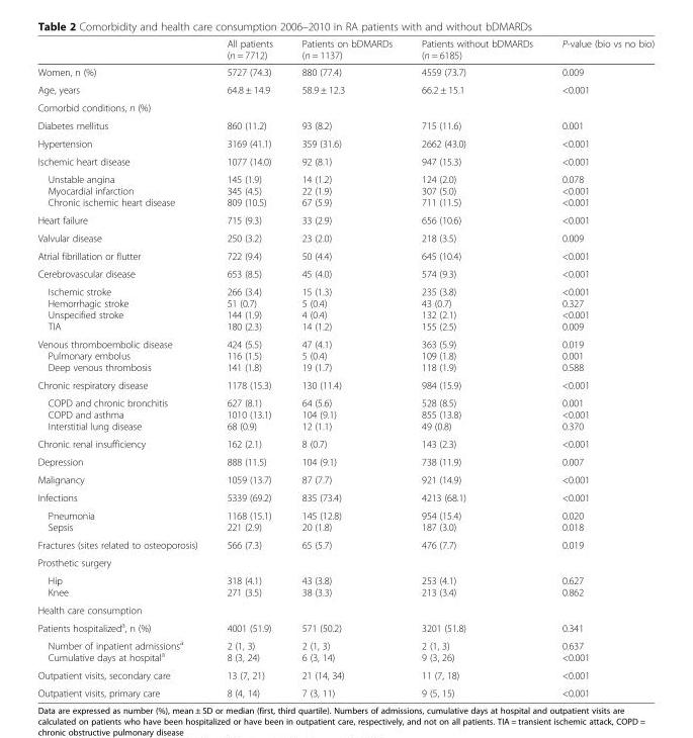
<table><thead><tr><td></td><td>All patients (n = 7712)</td><td>Patients on bDMARDs (n = 1137)</td><td>Patients without bDMARDs (n = 6185)</td><td>P-value (bio vs no bio)</td></tr></thead><tbody><tr><td>Women, n (%)</td><td>5727 (74.3)</td><td>880 (77.4)</td><td>4559 (73.7)</td><td>0.009</td></tr><tr><td>Age, years</td><td>64.8 ± 14.9</td><td>58.9 ± 12.3</td><td>66.2 ± 15.1</td><td>&lt;0.001</td></tr><tr><td colspan="5">Comorbid conditions, n (%)</td></tr><tr><td>Diabetes mellitus</td><td>860 (11.2)</td><td>93 (8.2)</td><td>715 (11.6)</td><td>0.001</td></tr><tr><td>Hypertension</td><td>3169 (41.1)</td><td>359 (31.6)</td><td>2662 (43.0)</td><td>&lt;0.001</td></tr><tr><td>Ischemic heart disease</td><td>1077 (14.0)</td><td>92 (8.1)</td><td>947 (15.3)</td><td>&lt;0.001</td></tr><tr><td>Unstable angina Myocardial infarction Chronic ischemic heart disease</td><td>145 (1.9) 345 (4.5) 809 (10.5)</td><td>14 (1.2) 22 (1.9) 67 (5.9)</td><td>124 (2.0) 307 (5.0) 711 (11.5)</td><td>0.078 &lt;0.001 &lt;0.001</td></tr><tr><td>Heart failure</td><td>715 (9.3)</td><td>33 (2.9)</td><td>656 (10.6)</td><td>&lt;0.001</td></tr><tr><td>Valvular disease</td><td>250 (3.2)</td><td>23 (2.0)</td><td>218 (3.5)</td><td>0.009</td></tr><tr><td>Atrial fibrillation or flutter</td><td>722 (9.4)</td><td>50 (4.4)</td><td>645 (10.4)</td><td>&lt;0.001</td></tr><tr><td>Cerebrovascular disease</td><td>653 (8.5)</td><td>45 (4.0)</td><td>574 (9.3)</td><td>&lt;0.001</td></tr><tr><td>Ischemic stroke Hemorrhagic stroke Unspecified stroke TIA</td><td>266 (3.4) 51 (0.7) 144 (1.9) 180 (2.3)</td><td>15 (1.3) 5 (0.4) 4 (0.4) 14 (1.2)</td><td>235 (3.8) 43 (0.7) 132 (2.1) 155 (2.5)</td><td>&lt;0.001 0.327 &lt;0.001 0.009</td></tr><tr><td>Venous thromboembolic disease Pulmonary embolus Deep venous thrombosis</td><td>424 (5.5) 116 (1.5) 141 (1.8)</td><td>47 (4.1) 5 (0.4) 19 (1.7)</td><td>363 (5.9) 109 (1.8) 118 (1.9)</td><td>0.019 0.001 0.588</td></tr><tr><td>Chronic respiratory disease</td><td>1178 (15.3)</td><td>130 (11.4)</td><td>984 (15.9)</td><td>&lt;0.001</td></tr><tr><td>COPD and chronic bronchitis COPD and asthma Interstitial lung disease</td><td>627 (8.1) 1010 (13.1) 68 (0.9)</td><td>64 (5.6) 104 (9.1) 12 (1.1)</td><td>528 (8.5) 855 (13.8) 49 (0.8)</td><td>0.001 &lt;0.001 0.370</td></tr><tr><td>Chronic renal insufficiency</td><td>162 (2.1)</td><td>8 (0.7)</td><td>143 (2.3)</td><td>&lt;0.001</td></tr><tr><td>Depression</td><td>888 (11.5)</td><td>104 (9.1)</td><td>738 (11.9)</td><td>0.007</td></tr><tr><td>Malignancy</td><td>1059 (13.7)</td><td>87 (7.7)</td><td>921 (14.9)</td><td>&lt;0.001</td></tr><tr><td>Infections</td><td>5339 (69.2)</td><td>835 (73.4)</td><td>4213 (68.1)</td><td>&lt;0.001</td></tr><tr><td>Pneumonia Sepsis</td><td>1168 (15.1) 221 (2.9)</td><td>145 (12.8) 20 (1.8)</td><td>954 (15.4) 187 (3.0)</td><td>0.020 0.018</td></tr><tr><td>Fractures (sites related to osteoporosis)</td><td>566 (7.3)</td><td>65 (5.7)</td><td>476 (7.7)</td><td>0.019</td></tr><tr><td colspan="5">Prosthetic surgery</td></tr><tr><td>Hip Knee</td><td>318 (4.1) 271 (3.5)</td><td>43 (3.8) 38 (3.3)</td><td>253 (4.1) 213 (3.4)</td><td>0.627 0.862</td></tr><tr><td colspan="5">Health care consumption</td></tr><tr><td>Patients hospitalized<sup>a</sup>, n (%)</td><td>4001 (51.9)</td><td>571 (50.2)</td><td>3201 (51.8)</td><td>0.341</td></tr><tr><td>Number of inpatient admissions<sup>a</sup> Cumulative days at hospital<sup>a</sup></td><td>2 (1, 3) 8 (3, 24)</td><td>2 (1, 3) 6 (3, 14)</td><td>2 (1, 3) 9 (3, 26)</td><td>0.637 &lt;0.001</td></tr><tr><td>Outpatient visits, secondary care</td><td>13 (7, 21)</td><td>21 (14, 34)</td><td>11 (7, 18)</td><td>&lt;0.001</td></tr><tr><td>Outpatient visits, primary care</td><td>8 (4, 14)</td><td>7 (3, 11)</td><td>9 (5, 15)</td><td>&lt;0.001</td></tr></tbody></table>